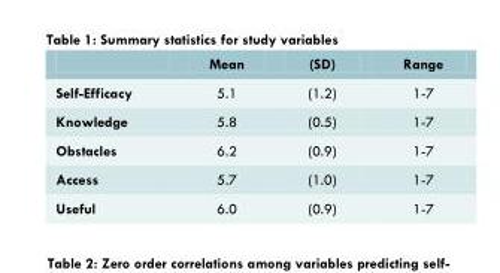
<table><thead><tr><td></td><td>Mean</td><td>(SD)</td><td>Range</td></tr></thead><tbody><tr><td>Self-Efficacy</td><td>5.1</td><td>(1.2)</td><td>1-7</td></tr><tr><td>Knowledge</td><td>5.8</td><td>(0.5)</td><td>1-7</td></tr><tr><td>Obstacles</td><td>6.2</td><td>(0.9)</td><td>1-7</td></tr><tr><td>Access</td><td>5.7</td><td>(1.0)</td><td>1-7</td></tr><tr><td>Useful</td><td>6.0</td><td>(0.9)</td><td>1-7</td></tr></tbody></table>